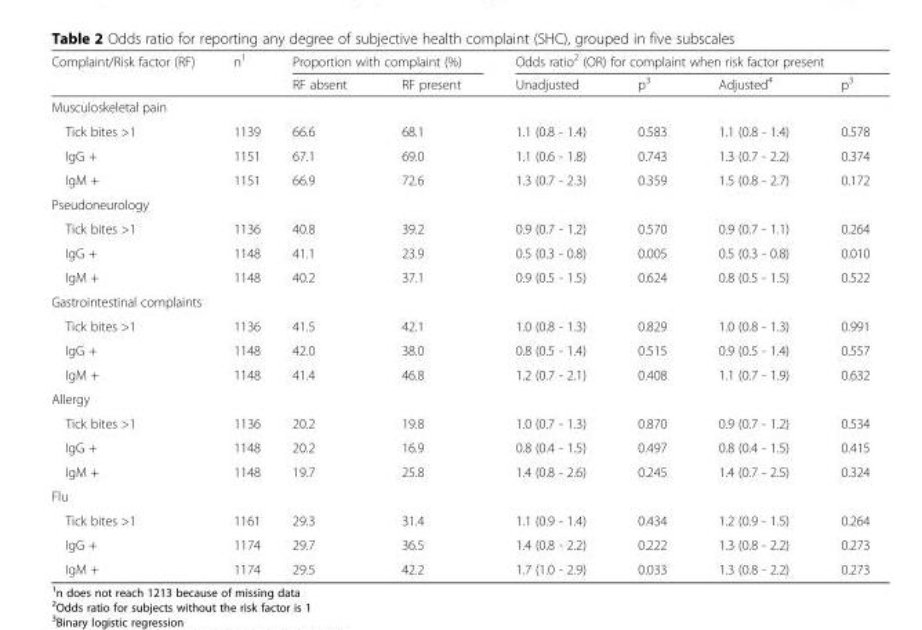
<table><thead><tr><td rowspan="2">Complaint/Risk factor (RF)</td><td rowspan="2">n<sup>1</sup></td><td colspan="2">Proportion with complaint (%)</td><td colspan="4">Odds ratio<sup>2</sup> (OR) for complaint when risk factor present</td></tr><tr><td>RF absent</td><td>RF present</td><td>Unadjusted</td><td>p<sup>3</sup></td><td>Adjusted<sup>4</sup></td><td>p<sup>3</sup></td></tr></thead><tbody><tr><td colspan="8">Musculoskeletal pain</td></tr><tr><td>Tick bites &gt;1</td><td>1139</td><td>66.6</td><td>68.1</td><td>1.1 (0.8 - 1.4)</td><td>0.583</td><td>1.1 (0.8 - 1.4)</td><td>0.578</td></tr><tr><td>IgG +</td><td>1151</td><td>67.1</td><td>69.0</td><td>1.1 (0.6 - 1.8)</td><td>0.743</td><td>1.3 (0.7 - 2.2)</td><td>0.374</td></tr><tr><td>IgM +</td><td>1151</td><td>66.9</td><td>72.6</td><td>1.3 (0.7 - 2.3)</td><td>0.359</td><td>1.5 (0.8 - 2.7)</td><td>0.172</td></tr><tr><td colspan="8">Pseudoneurology</td></tr><tr><td>Tick bites &gt;1</td><td>1136</td><td>40.8</td><td>39.2</td><td>0.9 (0.7 - 1.2)</td><td>0.570</td><td>0.9 (0.7 - 1.1)</td><td>0.264</td></tr><tr><td>IgG +</td><td>1148</td><td>41.1</td><td>23.9</td><td>0.5 (0.3 - 0.8)</td><td>0.005</td><td>0.5 (0.3 - 0.8)</td><td>0.010</td></tr><tr><td>IgM +</td><td>1148</td><td>40.2</td><td>37.1</td><td>0.9 (0.5 - 1.5)</td><td>0.624</td><td>0.8 (0.5 - 1.5)</td><td>0.522</td></tr><tr><td colspan="8">Gastrointestinal complaints</td></tr><tr><td>Tick bites &gt;1</td><td>1136</td><td>41.5</td><td>42.1</td><td>1.0 (0.8 - 1.3)</td><td>0.829</td><td>1.0 (0.8 - 1.3)</td><td>0.991</td></tr><tr><td>IgG +</td><td>1148</td><td>42.0</td><td>38.0</td><td>0.8 (0.5 - 1.4)</td><td>0.515</td><td>0.9 (0.5 - 1.4)</td><td>0.557</td></tr><tr><td>IgM +</td><td>1148</td><td>41.4</td><td>46.8</td><td>1.2 (0.7 - 2.1)</td><td>0.408</td><td>1.1 (0.7 - 1.9)</td><td>0.632</td></tr><tr><td colspan="8">Allergy</td></tr><tr><td>Tick bites &gt;1</td><td>1136</td><td>20.2</td><td>19.8</td><td>1.0 (0.7 - 1.3)</td><td>0.870</td><td>0.9 (0.7 - 1.2)</td><td>0.534</td></tr><tr><td>IgG +</td><td>1148</td><td>20.2</td><td>16.9</td><td>0.8 (0.4 - 1.5)</td><td>0.497</td><td>0.8 (0.4 - 1.5)</td><td>0.415</td></tr><tr><td>IgM +</td><td>1148</td><td>19.7</td><td>25.8</td><td>1.4 (0.8 - 2.6)</td><td>0.245</td><td>1.4 (0.7 - 2.5)</td><td>0.324</td></tr><tr><td colspan="8">Flu</td></tr><tr><td>Tick bites &gt;1</td><td>1161</td><td>29.3</td><td>31.4</td><td>1.1 (0.9 - 1.4)</td><td>0.434</td><td>1.2 (0.9 - 1.5)</td><td>0.264</td></tr><tr><td>IgG +</td><td>1174</td><td>29.7</td><td>36.5</td><td>1.4 (0.8 - 2.2)</td><td>0.222</td><td>1.3 (0.8 - 2.2)</td><td>0.273</td></tr><tr><td>IgM +</td><td>1174</td><td>29.5</td><td>42.2</td><td>1.7 (1.0 - 2.9)</td><td>0.033</td><td>1.3 (0.8 - 2.2)</td><td>0.273</td></tr></tbody></table>